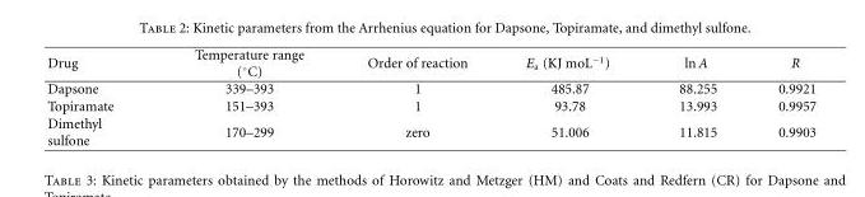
<table><thead><tr><td>Drug</td><td>Temperature range (◦C)</td><td>Order of reaction</td><td>E<sub>a</sub> (KJ moL<sup>−1</sup>)</td><td>lnA</td><td>R</td></tr></thead><tbody><tr><td>Dapsone</td><td>339–393</td><td>1</td><td>485.87</td><td>88.255</td><td>0.9921</td></tr><tr><td>Topiramate</td><td>151–393</td><td>1</td><td>93.78</td><td>13.993</td><td>0.9957</td></tr><tr><td>Dimethyl sulfone</td><td>170–299</td><td>zero</td><td>51.006</td><td>11.815</td><td>0.9903</td></tr></tbody></table>